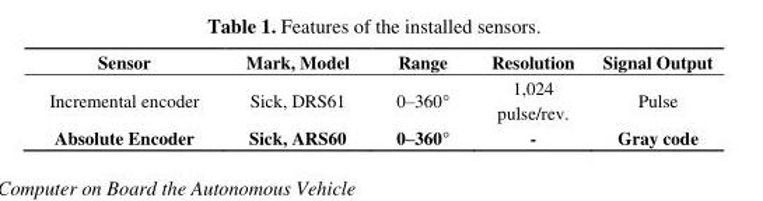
<table><thead><tr><td>Sensor</td><td>Mark, Model</td><td>Range</td><td>Resolution</td><td>Signal Output</td></tr></thead><tbody><tr><td>Incremental encoder</td><td>Sick, DRS61</td><td>0–360°</td><td>1,024 pulse/rev.</td><td>Pulse</td></tr><tr><td>Absolute Encoder</td><td>Sick, ARS60</td><td>0–360°</td><td>-</td><td>Gray code</td></tr></tbody></table>